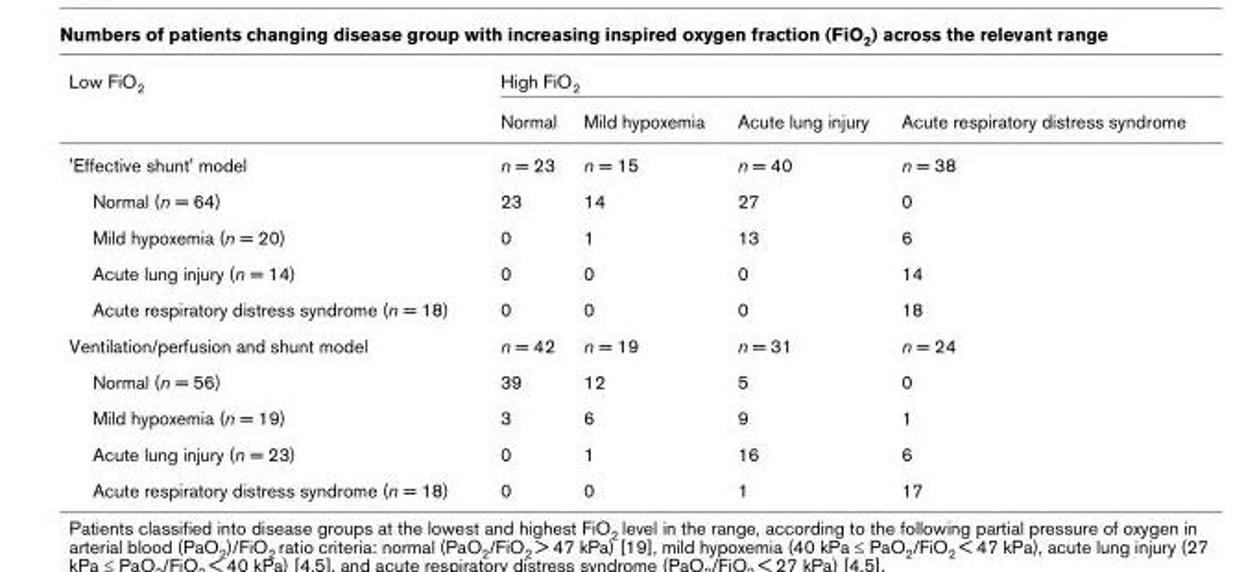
<table><thead><tr><td rowspan="2">Low FiO<sub>2</sub></td><td colspan="4">High FiO<sub>2</sub></td></tr><tr><td>Normal</td><td>Mild hypoxemia</td><td>Acute lung injury</td><td>Acute respiratory distress syndrome</td></tr></thead><tbody><tr><td>&#x27;Effective shunt&#x27; model</td><td>n = 23</td><td>n = 15</td><td>n = 40</td><td>n = 38</td></tr><tr><td>Normal (n = 64)</td><td>23</td><td>14</td><td>27</td><td>0</td></tr><tr><td>Mild hypoxemia (n = 20)</td><td>0</td><td>1</td><td>13</td><td>6</td></tr><tr><td>Acute lung injury (n = 14)</td><td>0</td><td>0</td><td>0</td><td>14</td></tr><tr><td>Acute respiratory distress syndrome (n = 18)</td><td>0</td><td>0</td><td>0</td><td>18</td></tr><tr><td>Ventilation/perfusion and shunt model</td><td>n = 42</td><td>n = 19</td><td>n = 31</td><td>n = 24</td></tr><tr><td>Normal (n = 56)</td><td>39</td><td>12</td><td>5</td><td>0</td></tr><tr><td>Mild hypoxemia (n = 19)</td><td>3</td><td>6</td><td>9</td><td>1</td></tr><tr><td>Acute lung injury (n = 23)</td><td>0</td><td>1</td><td>16</td><td>6</td></tr><tr><td>Acute respiratory distress syndrome (n = 18)</td><td>0</td><td>0</td><td>1</td><td>17</td></tr></tbody></table>